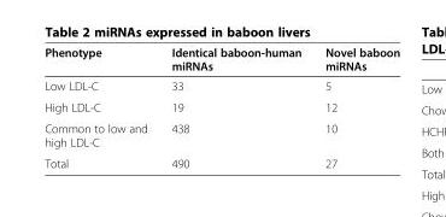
<table><thead><tr><td>Phenotype</td><td>Identical baboon-human miRNAs</td><td>Novel baboon miRNAs</td></tr></thead><tbody><tr><td>Low LDL-C</td><td>33</td><td>5</td></tr><tr><td>High LDL-C</td><td>19</td><td>12</td></tr><tr><td>Common to low and high LDL-C</td><td>438</td><td>10</td></tr><tr><td>Total</td><td>490</td><td>27</td></tr></tbody></table>